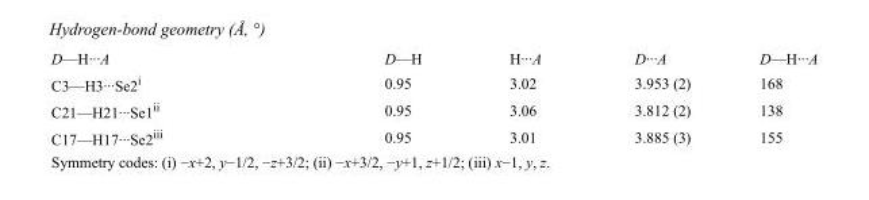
<table><tbody><tr><td>D—H···A</td><td>D—H</td><td>H···A</td><td>D···A</td><td>D—H···A</td></tr><tr><td>C3—H3···Se2<sup>i</sup></td><td>0.95</td><td>3.02</td><td>3.953 (2)</td><td>168</td></tr><tr><td>C21—H21···Se1<sup>ii</sup></td><td>0.95</td><td>3.06</td><td>3.812 (2)</td><td>138</td></tr><tr><td>C17—H17···Se2<sup>iii</sup></td><td>0.95</td><td>3.01</td><td>3.885 (3)</td><td>155</td></tr></tbody></table>